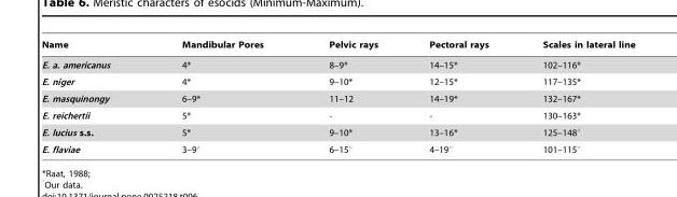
<table><thead><tr><td>Name</td><td>Mandibular Pores</td><td>Pelvic rays</td><td>Pectoral rays</td><td>Scales in lateral line</td></tr></thead><tbody><tr><td>E. a. americanus</td><td>4*</td><td>8–9*</td><td>14–15*</td><td>102–116*</td></tr><tr><td>E. niger</td><td>4*</td><td>9–10*</td><td>12–15*</td><td>117–135*</td></tr><tr><td>E. masquinongy</td><td>6–9*</td><td>11–12</td><td>14–19*</td><td>132–167*</td></tr><tr><td>E. reichertii</td><td>5*</td><td>-</td><td>-</td><td>130–163*</td></tr><tr><td>E. lucius s.s.</td><td>5*</td><td>9–10*</td><td>13–16*</td><td>125–148°</td></tr><tr><td>E. flaviae</td><td>3–9°</td><td>6–15°</td><td>4–19°</td><td>101–115°</td></tr></tbody></table>